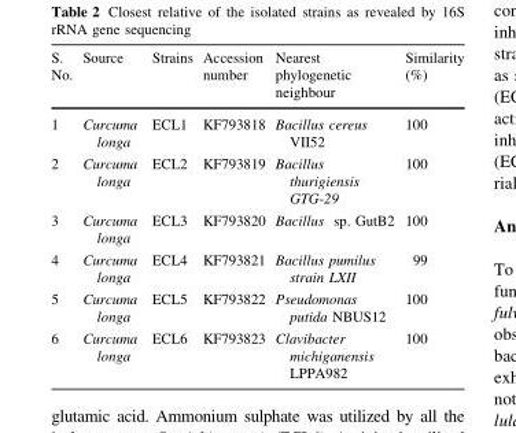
<table><thead><tr><td>S. No.</td><td>Source</td><td>Strains</td><td>Accession number</td><td>Nearest phylogenetic neighbour</td><td>Similarity (%)</td></tr></thead><tbody><tr><td>1</td><td>Curcuma longa</td><td>ECL1</td><td>KF793818</td><td>Bacillus cereus VII52</td><td>100</td></tr><tr><td>2</td><td>Curcuma longa</td><td>ECL2</td><td>KF793819</td><td>Bacillus thurigiensis GTG-29</td><td>100</td></tr><tr><td>3</td><td>Curcuma longa</td><td>ECL3</td><td>KF793820</td><td>Bacillus sp. GutB2</td><td>100</td></tr><tr><td>4</td><td>Curcuma longa</td><td>ECL4</td><td>KF793821</td><td>Bacillus pumilus strain LXII</td><td>99</td></tr><tr><td>5</td><td>Curcuma longa</td><td>ECL5</td><td>KF793822</td><td>Pseudomonas putida NBUS12</td><td>100</td></tr><tr><td>6</td><td>Curcuma longa</td><td>ECL6</td><td>KF793823</td><td>Clavibacter michiganensis LPPA982</td><td>100</td></tr></tbody></table>